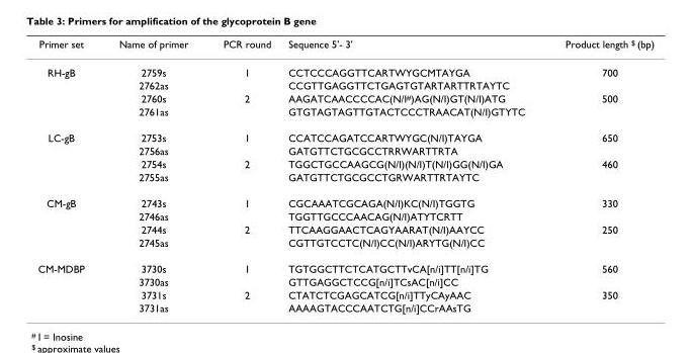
<table><thead><tr><td>Primer set</td><td>Name of primer</td><td>PCR round</td><td>Sequence 5&#x27;- 3&#x27;</td><td>Product length <sup>$</sup> (bp)</td></tr></thead><tbody><tr><td rowspan="4">RH-gB</td><td>2759s</td><td>1</td><td>CCTCCCAGGTTCARTWYGCMTAYGA</td><td>700</td></tr><tr><td>2762as</td><td></td><td>CCGTTGAGGTTCTGAGTGTARTARTTRTAYTC</td><td></td></tr><tr><td>2760s</td><td>2</td><td>AAGATCAACCCCAC(N/I<sup>#</sup>)AG(N/I)GT(N/I)ATG</td><td>500</td></tr><tr><td>2761as</td><td></td><td>GTGTAGTAGTTGTACTCCCTRAACAT(N/I)GTYTC</td><td></td></tr><tr><td rowspan="4">LC-gB</td><td>2753s</td><td>1</td><td>CCATCCAGATCCARTWYGC(N/I)TAYGA</td><td>650</td></tr><tr><td>2756as</td><td></td><td>GATGTTCTGCGCCTRRWARTTRTA</td><td></td></tr><tr><td>2754s</td><td>2</td><td>TGGCTGCCAAGCG(N/I)(N/I)T(N/I)GG(N/I)GA</td><td>460</td></tr><tr><td>2755as</td><td></td><td>GATGTTCTGCGCCTGRWARTTRTAYTC</td><td></td></tr><tr><td rowspan="4">CM-gB</td><td>2743s</td><td>1</td><td>CGCAAATCGCAGA(N/I)KC(N/I)TGGTG</td><td>330</td></tr><tr><td>2746as</td><td></td><td>TGGTTGCCCAACAG(N/I)ATYTCRTT</td><td></td></tr><tr><td>2744s</td><td>2</td><td>TTCAAGGAACTCAGYAARAT(N/I)AAYCC</td><td>250</td></tr><tr><td>2745as</td><td></td><td>CGTTGTCCTC(N/I)CC(N/I)ARYTG(N/I)CC</td><td></td></tr><tr><td rowspan="4">CM-MDBP</td><td>3730s</td><td>1</td><td>TGTGGCTTCTCATGCTTvCA[n/i]TT[n/i]TG</td><td>560</td></tr><tr><td>3730as</td><td></td><td>GTTGAGGCTCCG[n/i]TCsAC[n/i]CC</td><td></td></tr><tr><td>3731s</td><td>2</td><td>CTATCTCGAGCATCG[n/i]TTyCAyAAC</td><td>350</td></tr><tr><td>3731as</td><td></td><td>AAAAGTACCCAATCTG[n/i]CCrAAsTG</td><td></td></tr></tbody></table>